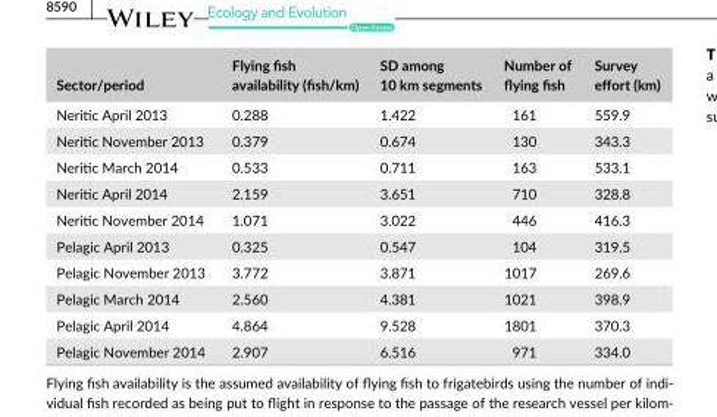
<table><thead><tr><td>Sector/period</td><td>Flying fish availability (fish/km)</td><td>SD among 10 km segments</td><td>Number of flying fish</td><td>Survey effort (km)</td></tr></thead><tbody><tr><td>Neritic April 2013</td><td>0.288</td><td>1.422</td><td>161</td><td>559.9</td></tr><tr><td>Neritic November 2013</td><td>0.379</td><td>0.674</td><td>130</td><td>343.3</td></tr><tr><td>Neritic March 2014</td><td>0.533</td><td>0.711</td><td>163</td><td>533.1</td></tr><tr><td>Neritic April 2014</td><td>2.159</td><td>3.651</td><td>710</td><td>328.8</td></tr><tr><td>Neritic November 2014</td><td>1.071</td><td>3.022</td><td>446</td><td>416.3</td></tr><tr><td>Pelagic April 2013</td><td>0.325</td><td>0.547</td><td>104</td><td>319.5</td></tr><tr><td>Pelagic November 2013</td><td>3.772</td><td>3.871</td><td>1017</td><td>269.6</td></tr><tr><td>Pelagic March 2014</td><td>2.560</td><td>4.381</td><td>1021</td><td>398.9</td></tr><tr><td>Pelagic April 2014</td><td>4.864</td><td>9.528</td><td>1801</td><td>370.3</td></tr><tr><td>Pelagic November 2014</td><td>2.907</td><td>6.516</td><td>971</td><td>334.0</td></tr></tbody></table>